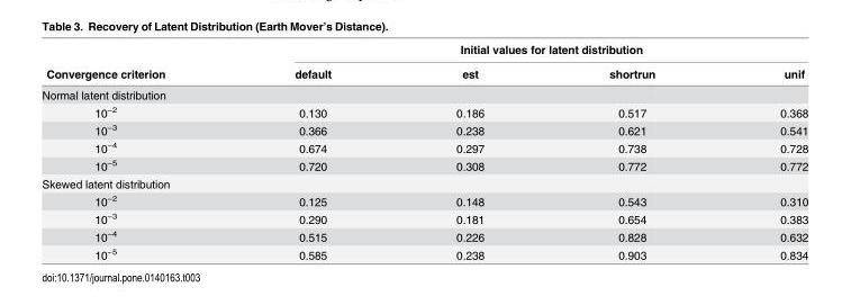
<table><thead><tr><td rowspan="2">Convergence criterion</td><td colspan="4">Initial values for latent distribution</td></tr><tr><td>default</td><td>est</td><td>shortrun</td><td>unif</td></tr></thead><tbody><tr><td colspan="5">Normal latent distribution</td></tr><tr><td>10<sup>−2</sup></td><td>0.130</td><td>0.186</td><td>0.517</td><td>0.368</td></tr><tr><td>10<sup>−3</sup></td><td>0.366</td><td>0.238</td><td>0.621</td><td>0.541</td></tr><tr><td>10<sup>−4</sup></td><td>0.674</td><td>0.297</td><td>0.738</td><td>0.728</td></tr><tr><td>10<sup>−5</sup></td><td>0.720</td><td>0.308</td><td>0.772</td><td>0.772</td></tr><tr><td colspan="5">Skewed latent distribution</td></tr><tr><td>10<sup>−2</sup></td><td>0.125</td><td>0.148</td><td>0.543</td><td>0.310</td></tr><tr><td>10<sup>−3</sup></td><td>0.290</td><td>0.181</td><td>0.654</td><td>0.383</td></tr><tr><td>10<sup>−4</sup></td><td>0.515</td><td>0.226</td><td>0.828</td><td>0.632</td></tr><tr><td>10<sup>−5</sup></td><td>0.585</td><td>0.238</td><td>0.903</td><td>0.834</td></tr></tbody></table>